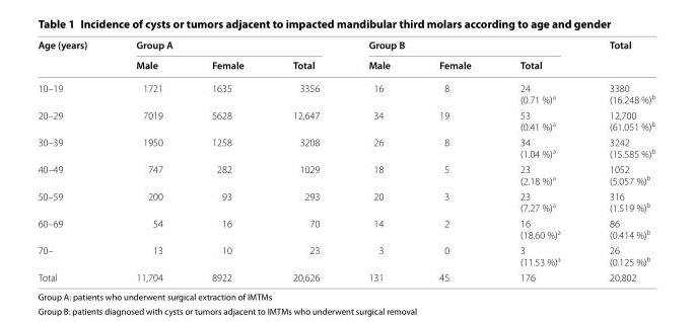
<table><thead><tr><td rowspan="2">Age (years)</td><td colspan="3">Group A</td><td colspan="3">Group B</td><td rowspan="2">Total</td></tr><tr><td>Male</td><td>Female</td><td>Total</td><td>Male</td><td>Female</td><td>Total</td></tr></thead><tbody><tr><td>10–19</td><td>1721</td><td>1635</td><td>3356</td><td>16</td><td>8</td><td>24 (0.71 %)<sup>a</sup></td><td>3380 (16.248 %)<sup>b</sup></td></tr><tr><td>20–29</td><td>7019</td><td>5628</td><td>12,647</td><td>34</td><td>19</td><td>53 (0.41 %)<sup>a</sup></td><td>12,700 (61.051 %)<sup>b</sup></td></tr><tr><td>30–39</td><td>1950</td><td>1258</td><td>3208</td><td>26</td><td>8</td><td>34 (1.04 %)<sup>a</sup></td><td>3242 (15.585 %)<sup>b</sup></td></tr><tr><td>40–49</td><td>747</td><td>282</td><td>1029</td><td>18</td><td>5</td><td>23 (2.18 %)<sup>a</sup></td><td>1052 (5.057 %)<sup>b</sup></td></tr><tr><td>50–59</td><td>200</td><td>93</td><td>293</td><td>20</td><td>3</td><td>23 (7.27 %)<sup>a</sup></td><td>316 (1.519 %)<sup>b</sup></td></tr><tr><td>60–69</td><td>54</td><td>16</td><td>70</td><td>14</td><td>2</td><td>16 (18.60 %)<sup>a</sup></td><td>86 (0.414 %)<sup>b</sup></td></tr><tr><td>70–</td><td>13</td><td>10</td><td>23</td><td>3</td><td>0</td><td>3 (11.53 %)<sup>a</sup></td><td>26 (0.125 %)<sup>b</sup></td></tr><tr><td>Total</td><td>11,704</td><td>8922</td><td>20,626</td><td>131</td><td>45</td><td>176</td><td>20,802</td></tr></tbody></table>